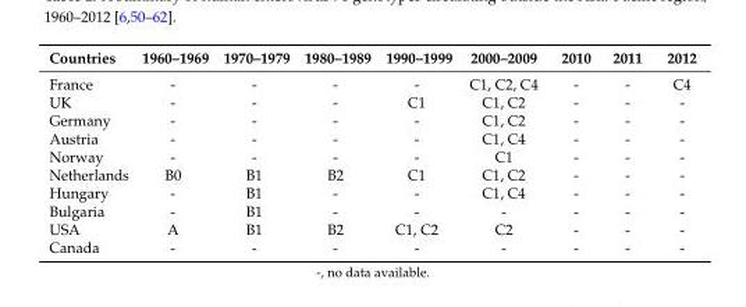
<table><thead><tr><td>Countries</td><td>1960–1969</td><td>1970–1979</td><td>1980–1989</td><td>1990–1999</td><td>2000–2009</td><td>2010</td><td>2011</td><td>2012</td></tr></thead><tbody><tr><td>France</td><td>-</td><td>-</td><td>-</td><td>-</td><td>C1, C2, C4</td><td>-</td><td>-</td><td>C4</td></tr><tr><td>UK</td><td>-</td><td>-</td><td>-</td><td>C1</td><td>C1, C2</td><td>-</td><td>-</td><td>-</td></tr><tr><td>Germany</td><td>-</td><td>-</td><td>-</td><td>-</td><td>C1, C2</td><td>-</td><td>-</td><td>-</td></tr><tr><td>Austria</td><td>-</td><td>-</td><td>-</td><td>-</td><td>C1, C4</td><td>-</td><td>-</td><td>-</td></tr><tr><td>Norway</td><td>-</td><td>-</td><td>-</td><td>-</td><td>C1</td><td>-</td><td>-</td><td>-</td></tr><tr><td>Netherlands</td><td>B0</td><td>B1</td><td>B2</td><td>C1</td><td>C1, C2</td><td>-</td><td>-</td><td>-</td></tr><tr><td>Hungary</td><td>-</td><td>B1</td><td>-</td><td>-</td><td>C1, C4</td><td>-</td><td>-</td><td>-</td></tr><tr><td>Bulgaria</td><td>-</td><td>B1</td><td>-</td><td>-</td><td>-</td><td>-</td><td>-</td><td>-</td></tr><tr><td>USA</td><td>A</td><td>B1</td><td>B2</td><td>C1, C2</td><td>C2</td><td>-</td><td>-</td><td>-</td></tr><tr><td>Canada</td><td>-</td><td>-</td><td>-</td><td>-</td><td>-</td><td>-</td><td>-</td><td>-</td></tr></tbody></table>